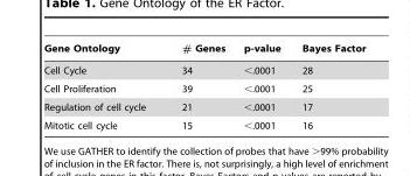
<table><thead><tr><td>Gene Ontology</td><td># Genes</td><td>p-value</td><td>Bayes Factor</td></tr></thead><tbody><tr><td>Cell Cycle</td><td>34</td><td>&lt;.0001</td><td>28</td></tr><tr><td>Cell Proliferation</td><td>39</td><td>&lt;.0001</td><td>25</td></tr><tr><td>Regulation of cell cycle</td><td>21</td><td>&lt;.0001</td><td>17</td></tr><tr><td>Mitotic cell cycle</td><td>15</td><td>&lt;.0001</td><td>16</td></tr></tbody></table>